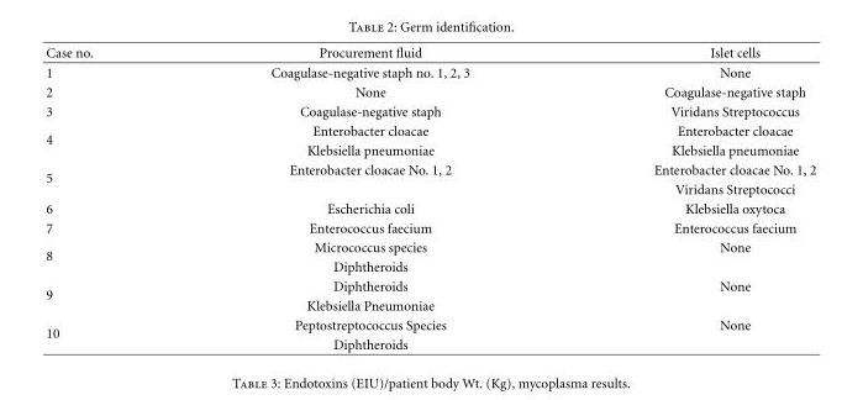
<table><thead><tr><td>Case no.</td><td>Procurement fluid</td><td>Islet cells</td></tr></thead><tbody><tr><td>1</td><td>Coagulase-negative staph no. 1, 2, 3</td><td>None</td></tr><tr><td>2</td><td>None</td><td>Coagulase-negative staph</td></tr><tr><td>3</td><td>Coagulase-negative staph</td><td>Viridans Streptococcus</td></tr><tr><td rowspan="2">4</td><td>Enterobacter cloacae</td><td>Enterobacter cloacae</td></tr><tr><td>Klebsiella pneumoniae</td><td>Klebsiella pneumoniae</td></tr><tr><td rowspan="2">5</td><td>Enterobacter cloacae No. 1, 2</td><td>Enterobacter cloacae No. 1, 2</td></tr><tr><td></td><td>Viridans Streptococci</td></tr><tr><td>6</td><td>Escherichia coli</td><td>Klebsiella oxytoca</td></tr><tr><td>7</td><td>Enterococcus faecium</td><td>Enterococcus faecium</td></tr><tr><td rowspan="2">8</td><td>Micrococcus species</td><td>None</td></tr><tr><td>Diphtheroids</td><td></td></tr><tr><td rowspan="2">9</td><td>Diphtheroids</td><td>None</td></tr><tr><td>Klebsiella Pneumoniae</td><td></td></tr><tr><td rowspan="2">10</td><td>Peptostreptococcus Species</td><td>None</td></tr><tr><td>Diphtheroids</td><td></td></tr></tbody></table>